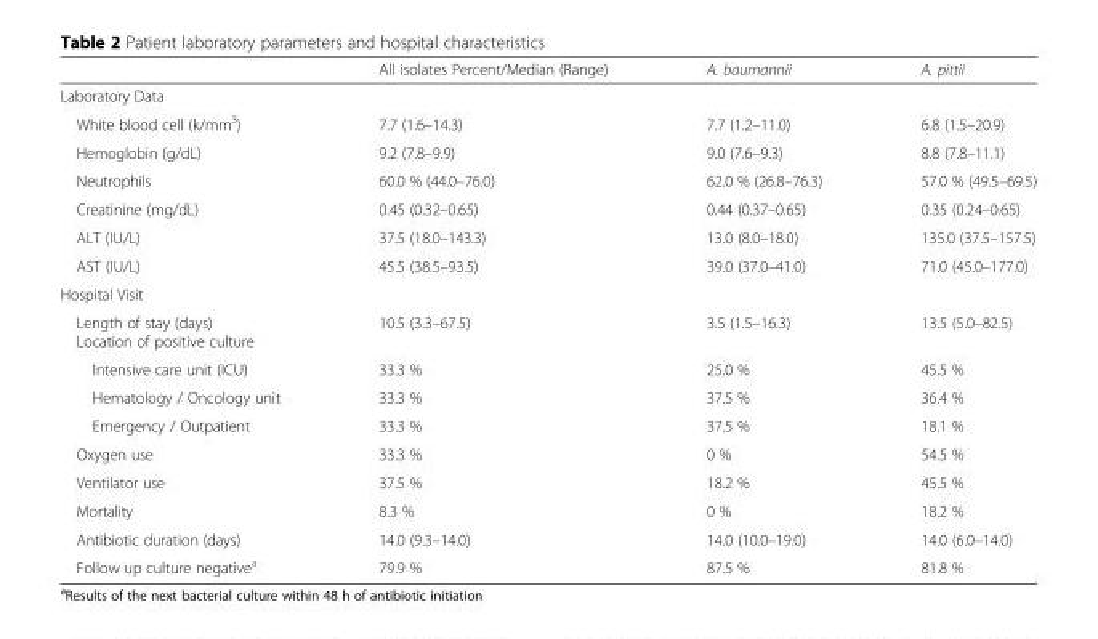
<table><thead><tr><td></td><td>All isolates Percent/Median (Range)</td><td>A. baumannii</td><td>A. pittii</td></tr></thead><tbody><tr><td colspan="4">Laboratory Data</td></tr><tr><td>White blood cell (k/mm<sup>3</sup>)</td><td>7.7 (1.6–14.3)</td><td>7.7 (1.2–11.0)</td><td>6.8 (1.5–20.9)</td></tr><tr><td>Hemoglobin (g/dL)</td><td>9.2 (7.8–9.9)</td><td>9.0 (7.6–9.3)</td><td>8.8 (7.8–11.1)</td></tr><tr><td>Neutrophils</td><td>60.0 % (44.0–76.0)</td><td>62.0 % (26.8–76.3)</td><td>57.0 % (49.5–69.5)</td></tr><tr><td>Creatinine (mg/dL)</td><td>0.45 (0.32–0.65)</td><td>0.44 (0.37–0.65)</td><td>0.35 (0.24–0.65)</td></tr><tr><td>ALT (IU/L)</td><td>37.5 (18.0–143.3)</td><td>13.0 (8.0–18.0)</td><td>135.0 (37.5–157.5)</td></tr><tr><td>AST (IU/L)</td><td>45.5 (38.5–93.5)</td><td>39.0 (37.0–41.0)</td><td>71.0 (45.0–177.0)</td></tr><tr><td colspan="4">Hospital Visit</td></tr><tr><td>Length of stay (days) Location of positive culture</td><td>10.5 (3.3–67.5)</td><td>3.5 (1.5–16.3)</td><td>13.5 (5.0–82.5)</td></tr><tr><td>Intensive care unit (ICU)</td><td>33.3 %</td><td>25.0 %</td><td>45.5 %</td></tr><tr><td>Hematology / Oncology unit</td><td>33.3 %</td><td>37.5 %</td><td>36.4 %</td></tr><tr><td>Emergency / Outpatient</td><td>33.3 %</td><td>37.5 %</td><td>18.1 %</td></tr><tr><td>Oxygen use</td><td>33.3 %</td><td>0 %</td><td>54.5 %</td></tr><tr><td>Ventilator use</td><td>37.5 %</td><td>18.2 %</td><td>45.5 %</td></tr><tr><td>Mortality</td><td>8.3 %</td><td>0 %</td><td>18.2 %</td></tr><tr><td>Antibiotic duration (days)</td><td>14.0 (9.3–14.0)</td><td>14.0 (10.0–19.0)</td><td>14.0 (6.0–14.0)</td></tr><tr><td>Follow up culture negative<sup>a</sup></td><td>79.9 %</td><td>87.5 %</td><td>81.8 %</td></tr></tbody></table>